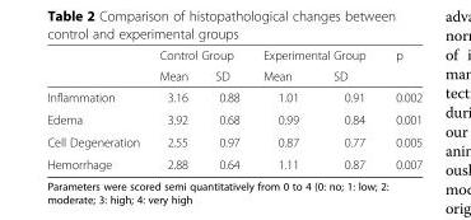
<table><thead><tr><td rowspan="2"></td><td colspan="2">Control Group</td><td colspan="2">Experimental Group</td><td rowspan="2">p</td></tr><tr><td>Mean</td><td>SD</td><td>Mean</td><td>SD</td></tr></thead><tbody><tr><td>Inflammation</td><td>3.16</td><td>0.88</td><td>1.01</td><td>0.91</td><td>0.002</td></tr><tr><td>Edema</td><td>3.92</td><td>0.68</td><td>0.99</td><td>0.84</td><td>0.001</td></tr><tr><td>Cell Degeneration</td><td>2.55</td><td>0.97</td><td>0.87</td><td>0.77</td><td>0.005</td></tr><tr><td>Hemorrhage</td><td>2.88</td><td>0.64</td><td>1.11</td><td>0.87</td><td>0.007</td></tr></tbody></table>